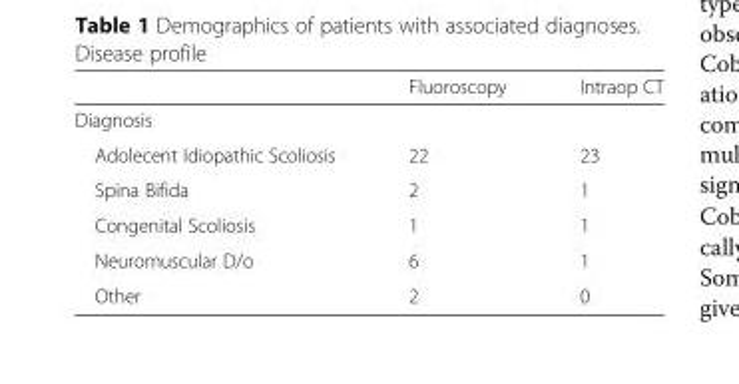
<table><thead><tr><td></td><td>Fluoroscopy</td><td>Intraop CT</td></tr></thead><tbody><tr><td colspan="3">Diagnosis</td></tr><tr><td>Adolecent Idiopathic Scoliosis</td><td>22</td><td>23</td></tr><tr><td>Spina Bifida</td><td>2</td><td>1</td></tr><tr><td>Congenital Scoliosis</td><td>1</td><td>1</td></tr><tr><td>Neuromuscular D/o</td><td>6</td><td>1</td></tr><tr><td>Other</td><td>2</td><td>0</td></tr></tbody></table>